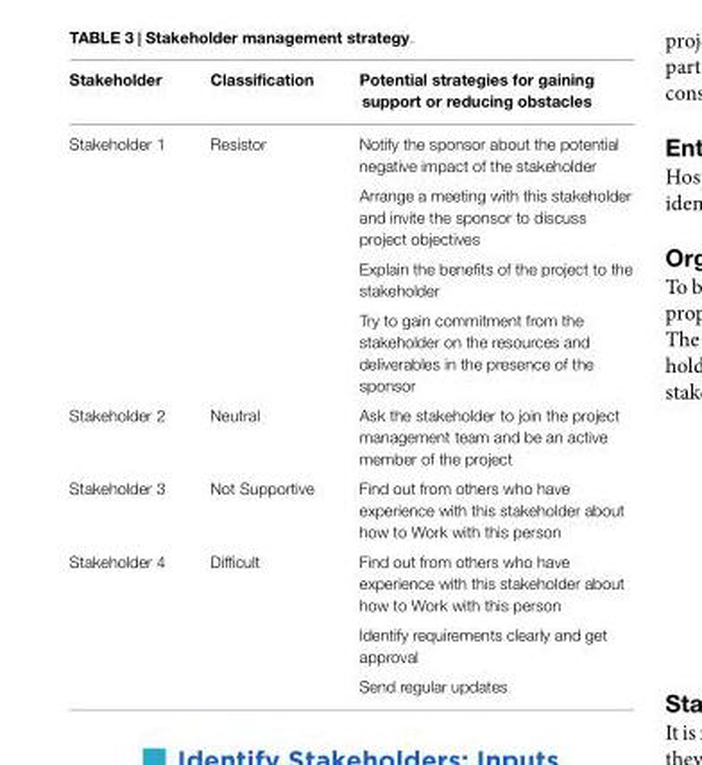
<table><thead><tr><td>Stakeholder</td><td>Classification</td><td>Potential strategies for gaining support or reducing obstacles</td></tr></thead><tbody><tr><td rowspan="4">Stakeholder 1</td><td>Resistor</td><td>Notify the sponsor about the potential negative impact of the stakeholder</td></tr><tr><td></td><td>Arrange a meeting with this stakeholder and invite the sponsor to discuss project objectives</td></tr><tr><td></td><td>Explain the benefits of the project to the stakeholder</td></tr><tr><td></td><td>Try to gain commitment from the stakeholder on the resources and deliverables in the presence of the sponsor</td></tr><tr><td>Stakeholder 2</td><td>Neutral</td><td>Ask the stakeholder to join the project management team and be an active member of the project</td></tr><tr><td>Stakeholder 3</td><td>Not Supportive</td><td>Find out from others who have experience with this stakeholder about how to Work with this person</td></tr><tr><td rowspan="3">Stakeholder 4</td><td>Difficult</td><td>Find out from others who have experience with this stakeholder about how to Work with this person</td></tr><tr><td></td><td>Identify requirements clearly and get approval</td></tr><tr><td></td><td>Send regular updates</td></tr></tbody></table>